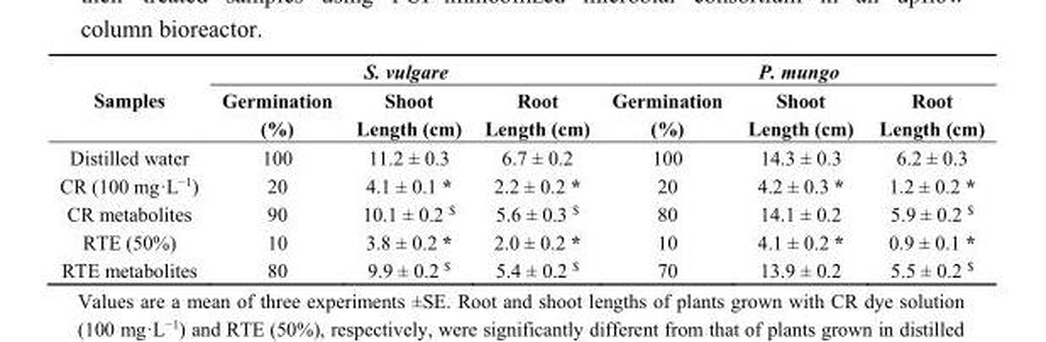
<table><thead><tr><td rowspan="2">Samples</td><td colspan="3">S. vulgare</td><td colspan="3">P. mungo</td></tr><tr><td>Germination (%)</td><td>Shoot Length (cm)</td><td>Root Length (cm)</td><td>Germination (%)</td><td>Shoot Length (cm)</td><td>Root Length (cm)</td></tr></thead><tbody><tr><td>Distilled water</td><td>100</td><td>11.2 ± 0.3</td><td>6.7 ± 0.2</td><td>100</td><td>14.3 ± 0.3</td><td>6.2 ± 0.3</td></tr><tr><td>CR (100 mg·L<sup>−1</sup>)</td><td>20</td><td>4.1 ± 0.1 *</td><td>2.2 ± 0.2 *</td><td>20</td><td>4.2 ± 0.3 *</td><td>1.2 ± 0.2 *</td></tr><tr><td>CR metabolites</td><td>90</td><td>10.1 ± 0.2 <sup>$</sup></td><td>5.6 ± 0.3 <sup>$</sup></td><td>80</td><td>14.1 ± 0.2</td><td>5.9 ± 0.2 <sup>$</sup></td></tr><tr><td>RTE (50%)</td><td>10</td><td>3.8 ± 0.2 *</td><td>2.0 ± 0.2 *</td><td>10</td><td>4.1 ± 0.2 *</td><td>0.9 ± 0.1 *</td></tr><tr><td>RTE metabolites</td><td>80</td><td>9.9 ± 0.2 <sup>$</sup></td><td>5.4 ± 0.2 <sup>$</sup></td><td>70</td><td>13.9 ± 0.2</td><td>5.5 ± 0.2 <sup>$</sup></td></tr></tbody></table>